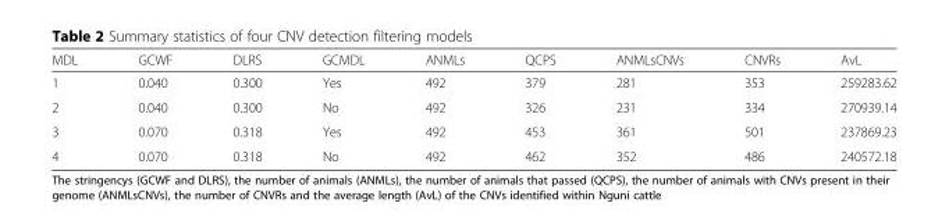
<table><thead><tr><td>MDL</td><td>GCWF</td><td>DLRS</td><td>GCMDL</td><td>ANMLs</td><td>QCPS</td><td>ANMLsCNVs</td><td>CNVRs</td><td>AvL</td></tr></thead><tbody><tr><td>1</td><td>0.040</td><td>0.300</td><td>Yes</td><td>492</td><td>379</td><td>281</td><td>353</td><td>259283.62</td></tr><tr><td>2</td><td>0.040</td><td>0.300</td><td>No</td><td>492</td><td>326</td><td>231</td><td>334</td><td>270939.14</td></tr><tr><td>3</td><td>0.070</td><td>0.318</td><td>Yes</td><td>492</td><td>453</td><td>361</td><td>501</td><td>237869.23</td></tr><tr><td>4</td><td>0.070</td><td>0.318</td><td>No</td><td>492</td><td>462</td><td>352</td><td>486</td><td>240572.18</td></tr></tbody></table>